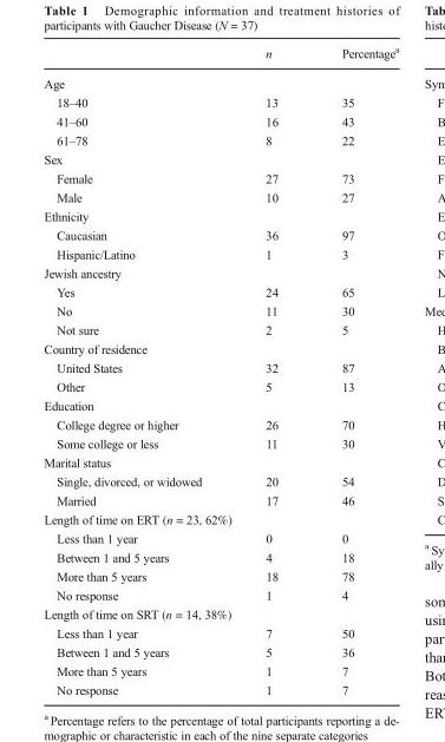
<table><thead><tr><td></td><td>n</td><td>Percentage<sup>a</sup></td></tr></thead><tbody><tr><td colspan="3">Age</td></tr><tr><td>18–40</td><td>13</td><td>35</td></tr><tr><td>41–60</td><td>16</td><td>43</td></tr><tr><td>61–78</td><td>8</td><td>22</td></tr><tr><td colspan="3">Sex</td></tr><tr><td>Female</td><td>27</td><td>73</td></tr><tr><td>Male</td><td>10</td><td>27</td></tr><tr><td colspan="3">Ethnicity</td></tr><tr><td>Caucasian</td><td>36</td><td>97</td></tr><tr><td>Hispanic/Latino</td><td>1</td><td>3</td></tr><tr><td colspan="3">Jewish ancestry</td></tr><tr><td>Yes</td><td>24</td><td>65</td></tr><tr><td>No</td><td>11</td><td>30</td></tr><tr><td>Not sure</td><td>2</td><td>5</td></tr><tr><td colspan="3">Country of residence</td></tr><tr><td>United States</td><td>32</td><td>87</td></tr><tr><td>Other</td><td>5</td><td>13</td></tr><tr><td colspan="3">Education</td></tr><tr><td>College degree or higher</td><td>26</td><td>70</td></tr><tr><td>Some college or less</td><td>11</td><td>30</td></tr><tr><td colspan="3">Marital status</td></tr><tr><td>Single, divorced, or widowed</td><td>20</td><td>54</td></tr><tr><td>Married</td><td>17</td><td>46</td></tr><tr><td colspan="3">Length of time on ERT (n = 23, 62%)</td></tr><tr><td>Less than 1 year</td><td>0</td><td>0</td></tr><tr><td>Between 1 and 5 years</td><td>4</td><td>18</td></tr><tr><td>More than 5 years</td><td>18</td><td>78</td></tr><tr><td>No response</td><td>1</td><td>4</td></tr><tr><td colspan="3">Length of time on SRT (n = 14, 38%)</td></tr><tr><td>Less than 1 year</td><td>7</td><td>50</td></tr><tr><td>Between 1 and 5 years</td><td>5</td><td>36</td></tr><tr><td>More than 5 years</td><td>1</td><td>7</td></tr><tr><td>No response</td><td>1</td><td>7</td></tr></tbody></table>